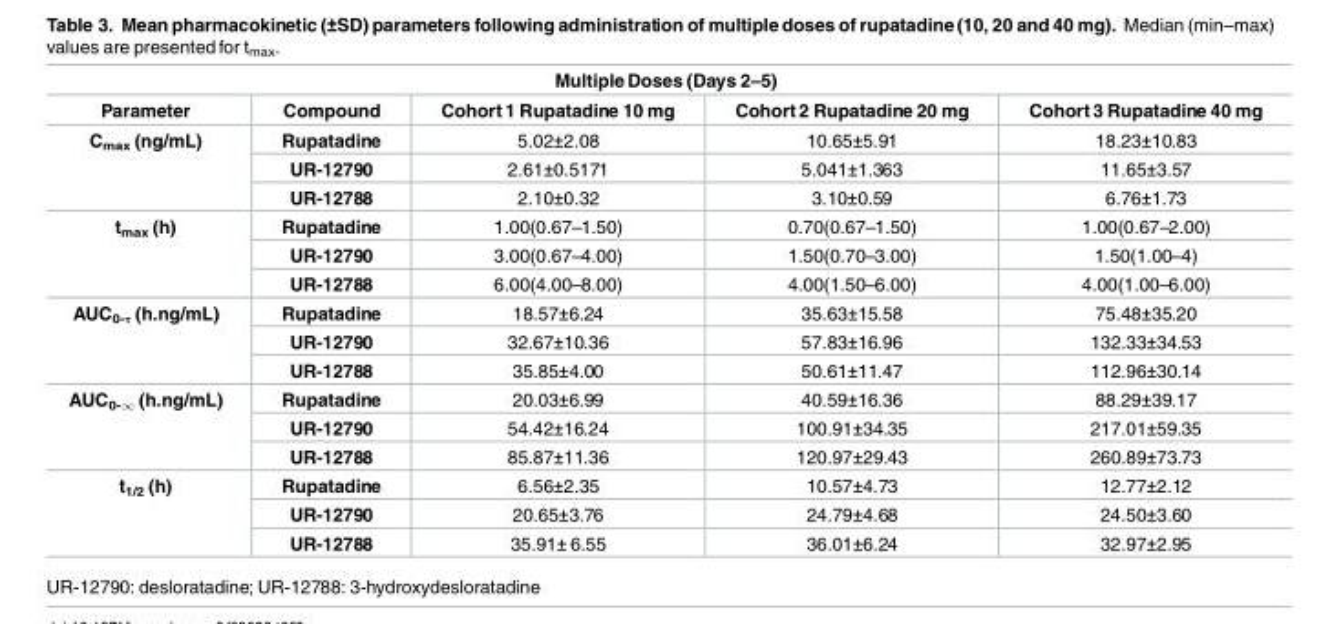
<table><thead><tr><td colspan="5">Multiple Doses (Days 2–5)</td></tr><tr><td>Parameter</td><td>Compound</td><td>Cohort 1 Rupatadine 10 mg</td><td>Cohort 2 Rupatadine 20 mg</td><td>Cohort 3 Rupatadine 40 mg</td></tr></thead><tbody><tr><td rowspan="3">C<sub>max</sub> (ng/mL)</td><td>Rupatadine</td><td>5.02±2.08</td><td>10.65±5.91</td><td>18.23±10.83</td></tr><tr><td>UR-12790</td><td>2.61±0.5171</td><td>5.041±1.363</td><td>11.65±3.57</td></tr><tr><td>UR-12788</td><td>2.10±0.32</td><td>3.10±0.59</td><td>6.76±1.73</td></tr><tr><td rowspan="3">t<sub>max</sub> (h)</td><td>Rupatadine</td><td>1.00(0.67–1.50)</td><td>0.70(0.67–1.50)</td><td>1.00(0.67–2.00)</td></tr><tr><td>UR-12790</td><td>3.00(0.67–4.00)</td><td>1.50(0.70–3.00)</td><td>1.50(1.00–4)</td></tr><tr><td>UR-12788</td><td>6.00(4.00–8.00)</td><td>4.00(1.50–6.00)</td><td>4.00(1.00–6.00)</td></tr><tr><td rowspan="3">AUC<sub>0-τ</sub> (h.ng/mL)</td><td>Rupatadine</td><td>18.57±6.24</td><td>35.63±15.58</td><td>75.48±35.20</td></tr><tr><td>UR-12790</td><td>32.67±10.36</td><td>57.83±16.96</td><td>132.33±34.53</td></tr><tr><td>UR-12788</td><td>35.85±4.00</td><td>50.61±11.47</td><td>112.96±30.14</td></tr><tr><td rowspan="3">AUC<sub>0-∞</sub> (h.ng/mL)</td><td>Rupatadine</td><td>20.03±6.99</td><td>40.59±16.36</td><td>88.29±39.17</td></tr><tr><td>UR-12790</td><td>54.42±16.24</td><td>100.91±34.35</td><td>217.01±59.35</td></tr><tr><td>UR-12788</td><td>85.87±11.36</td><td>120.97±29.43</td><td>260.89±73.73</td></tr><tr><td rowspan="3">t<sub>1/2</sub> (h)</td><td>Rupatadine</td><td>6.56±2.35</td><td>10.57±4.73</td><td>12.77±2.12</td></tr><tr><td>UR-12790</td><td>20.65±3.76</td><td>24.79±4.68</td><td>24.50±3.60</td></tr><tr><td>UR-12788</td><td>35.91± 6.55</td><td>36.01±6.24</td><td>32.97±2.95</td></tr></tbody></table>